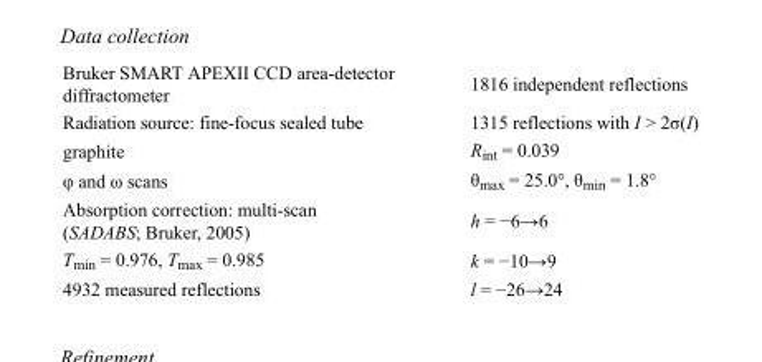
<table><tbody><tr><td>Bruker SMART APEXII CCD area-detector diffractometer</td><td>1816 independent reflections</td></tr><tr><td>Radiation source: fine-focus sealed tube</td><td>1315 reflections with I &gt; 2σ(I)</td></tr><tr><td>graphite</td><td>R<sub>int</sub> = 0.039</td></tr><tr><td>φ and ω scans</td><td>θ<sub>max</sub> = 25.0°, θ<sub>min</sub> = 1.8°</td></tr><tr><td>Absorption correction: multi-scan (SADABS; Bruker, 2005)</td><td>h = −6→6</td></tr><tr><td>T<sub>min</sub> = 0.976, T<sub>max</sub> = 0.985</td><td>k = −10→9</td></tr><tr><td>4932 measured reflections</td><td>l = −26→24</td></tr></tbody></table>